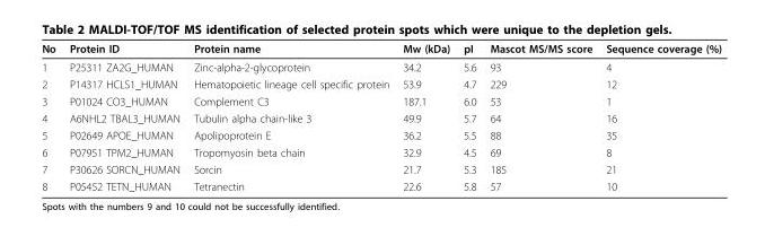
<table><thead><tr><td>No</td><td>Protein ID</td><td>Protein name</td><td>Mw (kDa)</td><td>pI</td><td>Mascot MS/MS score</td><td>Sequence coverage (%)</td></tr></thead><tbody><tr><td>1</td><td>P25311 ZA2G_HUMAN</td><td>Zinc-alpha-2-glycoprotein</td><td>34.2</td><td>5.6</td><td>93</td><td>4</td></tr><tr><td>2</td><td>P14317 HCLS1_HUMAN</td><td>Hematopoietic lineage cell specific protein</td><td>53.9</td><td>4.7</td><td>229</td><td>12</td></tr><tr><td>3</td><td>P01024 CO3_HUMAN</td><td>Complement C3</td><td>187.1</td><td>6.0</td><td>53</td><td>1</td></tr><tr><td>4</td><td>A6NHL2 TBAL3_HUMAN</td><td>Tubulin alpha chain-like 3</td><td>49.9</td><td>5.7</td><td>64</td><td>16</td></tr><tr><td>5</td><td>P02649 APOE_HUMAN</td><td>Apolipoprotein E</td><td>36.2</td><td>5.5</td><td>88</td><td>35</td></tr><tr><td>6</td><td>P07951 TPM2_HUMAN</td><td>Tropomyosin beta chain</td><td>32.9</td><td>4.5</td><td>69</td><td>8</td></tr><tr><td>7</td><td>P30626 SORCN_HUMAN</td><td>Sorcin</td><td>21.7</td><td>5.3</td><td>185</td><td>21</td></tr><tr><td>8</td><td>P05452 TETN_HUMAN</td><td>Tetranectin</td><td>22.6</td><td>5.8</td><td>57</td><td>10</td></tr></tbody></table>